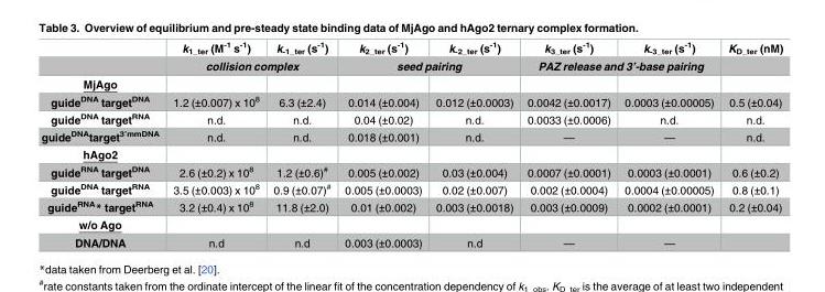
<table><thead><tr><td rowspan="2"></td><td>k<sub>1_ter</sub> (M<sup>-1</sup> s<sup>-1</sup>)</td><td>k<sub>-1_ter</sub> (s<sup>-1</sup>)</td><td>k<sub>2_ter</sub> (s<sup>-1</sup>)</td><td>k<sub>-2_ter</sub> (s<sup>-1</sup>)</td><td>k<sub>3_ter</sub> (s<sup>-1</sup>)</td><td>k<sub>-3_ter</sub> (s<sup>-1</sup>)</td><td rowspan="2">K<sub>D_ter</sub> (nM)</td></tr><tr><td colspan="2">collision complex</td><td colspan="2">seed pairing</td><td colspan="2">PAZ release and 3’-base pairing</td></tr></thead><tbody><tr><td colspan="8">MjAgo</td></tr><tr><td>guide<sup>DNA</sup> target<sup>DNA</sup></td><td>1.2 (±0.007) x 10<sup>8</sup></td><td>6.3 (±2.4)</td><td>0.014 (±0.004)</td><td>0.012 (±0.0003)</td><td>0.0042 (±0.0017)</td><td>0.0003 (±0.00005)</td><td>0.5 (±0.04)</td></tr><tr><td>guide<sup>DNA</sup> target<sup>RNA</sup></td><td>n.d.</td><td>n.d.</td><td>0.04 (±0.02)</td><td>n.d.</td><td>0.0033 (±0.0006)</td><td>n.d.</td><td>n.d.</td></tr><tr><td>guide<sup>DNA</sup>target<sup>3’mmDNA</sup></td><td>n.d.</td><td>n.d.</td><td>0.018 (±0.001)</td><td>n.d.</td><td>—</td><td>—</td><td>n.d.</td></tr><tr><td colspan="8">hAgo2</td></tr><tr><td>guide<sup>RNA</sup> target<sup>DNA</sup></td><td>2.6 (±0.2) x 10<sup>8</sup></td><td>1.2 (±0.6)<sup>#</sup></td><td>0.005 (±0.002)</td><td>0.03 (±0.004)</td><td>0.0007 (±0.0001)</td><td>0.0003 (±0.0001)</td><td>0.6 (±0.2)</td></tr><tr><td>guide<sup>DNA</sup> target<sup>RNA</sup></td><td>3.5 (±0.003) x 10<sup>8</sup></td><td>0.9 (±0.07)<sup>#</sup></td><td>0.005 (±0.0003)</td><td>0.02 (±0.007)</td><td>0.002 (±0.0004)</td><td>0.0004 (±0.00005)</td><td>0.8 (±0.1)</td></tr><tr><td>guide<sup>RNA</sup>* target<sup>RNA</sup></td><td>3.2 (±0.4) x 10<sup>8</sup></td><td>11.8 (±2.0)</td><td>0.01 (±0.002)</td><td>0.003 (±0.0018)</td><td>0.003 (±0.0009)</td><td>0.0002 (±0.0001)</td><td>0.2 (±0.04)</td></tr><tr><td colspan="8">w/o Ago</td></tr><tr><td>DNA/DNA</td><td>n.d</td><td>n.d</td><td>0.003 (±0.0003)</td><td>n.d</td><td>—</td><td>—</td><td></td></tr></tbody></table>